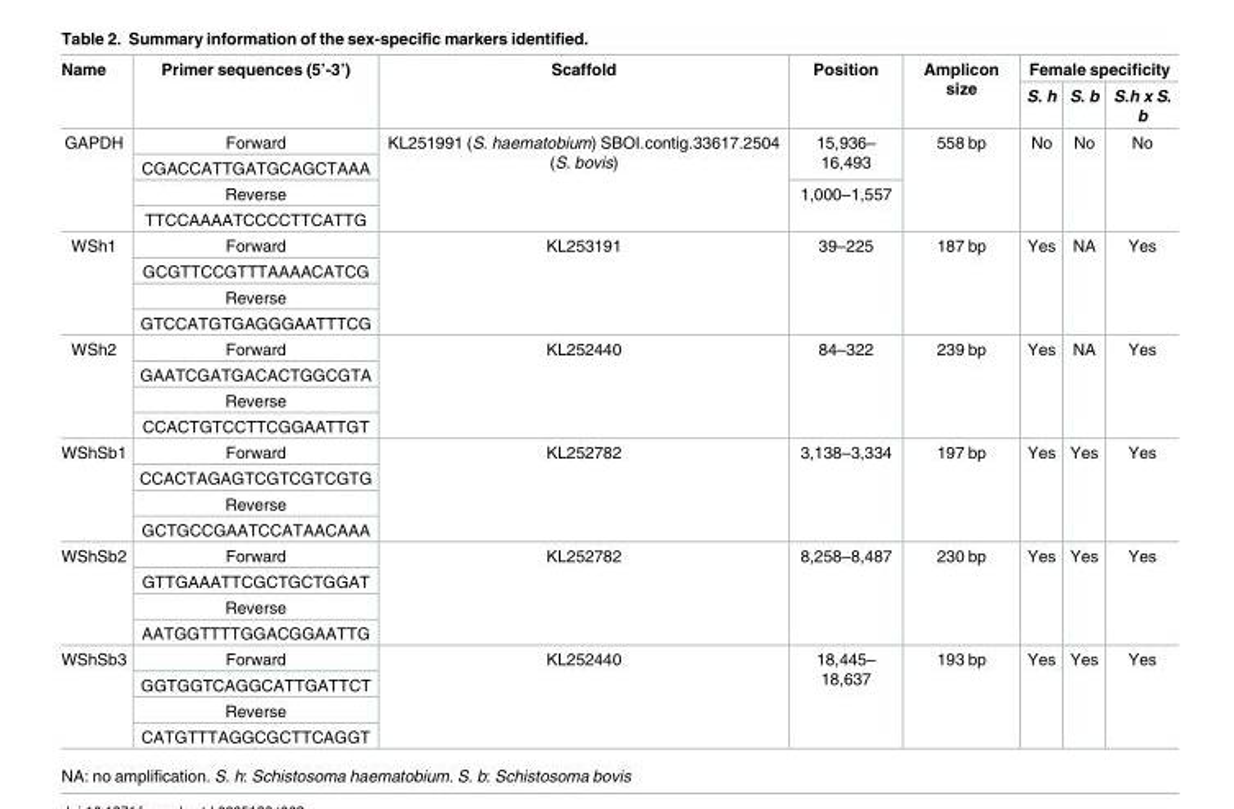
<table><thead><tr><td rowspan="2">Name</td><td rowspan="2">Primer sequences (5’-3’)</td><td rowspan="2">Scaffold</td><td rowspan="2">Position</td><td rowspan="2">Amplicon size</td><td colspan="3">Female specificity</td></tr><tr><td>S. h</td><td>S. b</td><td>S.h x S. b</td></tr></thead><tbody><tr><td rowspan="4">GAPDH</td><td>Forward</td><td rowspan="4">KL251991 (S. haematobium) SBOI.contig.33617.2504 (S. bovis)</td><td rowspan="2">15,936– 16,493</td><td rowspan="4">558 bp</td><td rowspan="4">No</td><td rowspan="4">No</td><td rowspan="4">No</td></tr><tr><td>CGACCATTGATGCAGCTAAA</td></tr><tr><td>Reverse</td><td rowspan="2">1,000–1,557</td></tr><tr><td>TTCCAAAATCCCCTTCATTG</td></tr><tr><td rowspan="4">WSh1</td><td>Forward</td><td rowspan="4">KL253191</td><td rowspan="4">39–225</td><td rowspan="4">187 bp</td><td rowspan="4">Yes</td><td rowspan="4">NA</td><td rowspan="4">Yes</td></tr><tr><td>GCGTTCCGTTTAAAACATCG</td></tr><tr><td>Reverse</td></tr><tr><td>GTCCATGTGAGGGAATTTCG</td></tr><tr><td rowspan="4">WSh2</td><td>Forward</td><td rowspan="4">KL252440</td><td rowspan="4">84–322</td><td rowspan="4">239 bp</td><td rowspan="4">Yes</td><td rowspan="4">NA</td><td rowspan="4">Yes</td></tr><tr><td>GAATCGATGACACTGGCGTA</td></tr><tr><td>Reverse</td></tr><tr><td>CCACTGTCCTTCGGAATTGT</td></tr><tr><td rowspan="4">WShSb1</td><td>Forward</td><td rowspan="4">KL252782</td><td rowspan="4">3,138–3,334</td><td rowspan="4">197 bp</td><td rowspan="4">Yes</td><td rowspan="4">Yes</td><td rowspan="4">Yes</td></tr><tr><td>CCACTAGAGTCGTCGTCGTG</td></tr><tr><td>Reverse</td></tr><tr><td>GCTGCCGAATCCATAACAAA</td></tr><tr><td rowspan="4">WShSb2</td><td>Forward</td><td rowspan="4">KL252782</td><td rowspan="4">8,258–8,487</td><td rowspan="4">230 bp</td><td rowspan="4">Yes</td><td rowspan="4">Yes</td><td rowspan="4">Yes</td></tr><tr><td>GTTGAAATTCGCTGCTGGAT</td></tr><tr><td>Reverse</td></tr><tr><td>AATGGTTTTGGACGGAATTG</td></tr><tr><td rowspan="4">WShSb3</td><td>Forward</td><td rowspan="4">KL252440</td><td rowspan="4">18,445– 18,637</td><td rowspan="4">193 bp</td><td rowspan="4">Yes</td><td rowspan="4">Yes</td><td rowspan="4">Yes</td></tr><tr><td>GGTGGTCAGGCATTGATTCT</td></tr><tr><td>Reverse</td></tr><tr><td>CATGTTTAGGCGCTTCAGGT</td></tr></tbody></table>